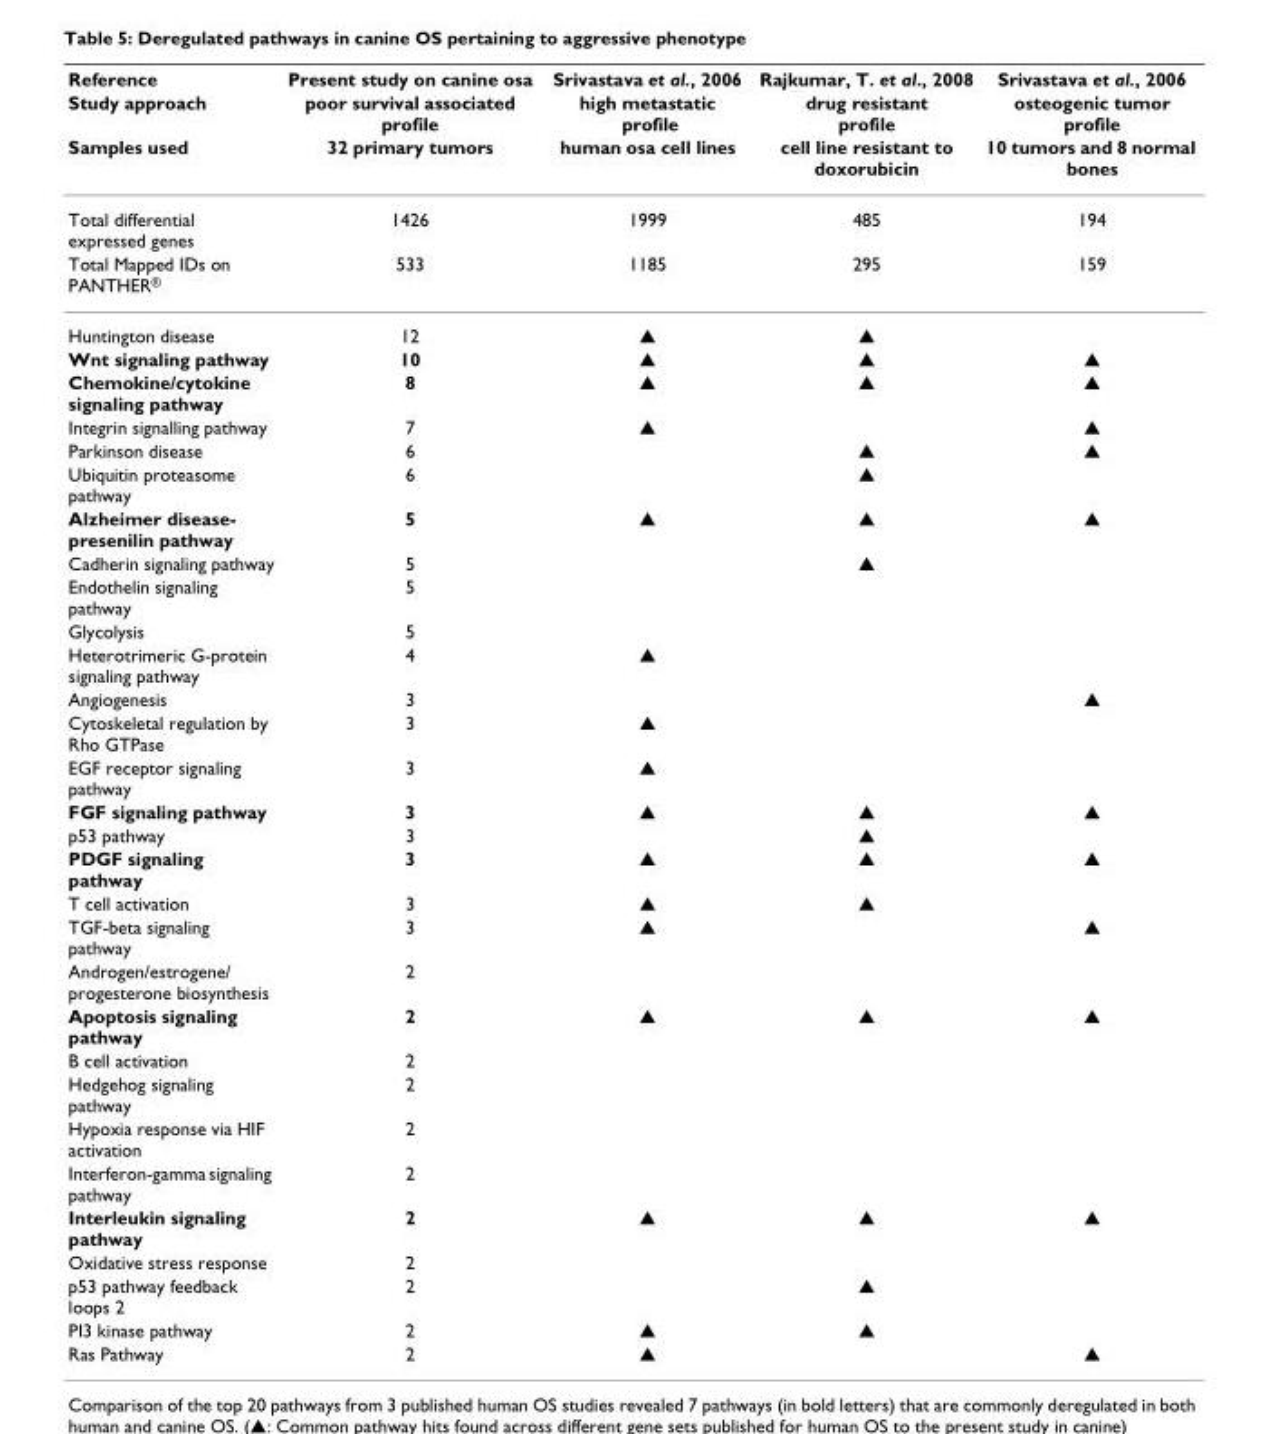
<table><thead><tr><td rowspan="3">Reference Study approach Samples used</td><td rowspan="3">Present study on canine osa poor survival associated profile 32 primary tumors</td><td rowspan="3">Srivastava et al., 2006 high metastatic profile human osa cell lines</td><td rowspan="3">Rajkumar, T. et al., 2008 drug resistant profile cell line resistant to doxorubicin</td><td rowspan="3">Srivastava et al., 2006 osteogenic tumor profile 10 tumors and 8 normal bones</td></tr><tr></tr><tr></tr></thead><tbody><tr><td>Total differential expressed genes</td><td>1426</td><td>1999</td><td>485</td><td>194</td></tr><tr><td>Total Mapped IDs on PANTHER®</td><td>533</td><td>1185</td><td>295</td><td>159</td></tr><tr><td>Huntington disease</td><td>12</td><td>▲</td><td>▲</td><td></td></tr><tr><td>Wnt signaling pathway</td><td>10</td><td>▲</td><td>▲</td><td>▲</td></tr><tr><td>Chemokine/cytokine signaling pathway</td><td>8</td><td>▲</td><td>▲</td><td>▲</td></tr><tr><td>Integrin signalling pathway</td><td>7</td><td>▲</td><td></td><td>▲</td></tr><tr><td>Parkinson disease</td><td>6</td><td></td><td>▲</td><td>▲</td></tr><tr><td>Ubiquitin proteasome pathway</td><td>6</td><td></td><td>▲</td><td></td></tr><tr><td>Alzheimer disease- presenilin pathway</td><td>5</td><td>▲</td><td>▲</td><td>▲</td></tr><tr><td>Cadherin signaling pathway</td><td>5</td><td></td><td>▲</td><td></td></tr><tr><td>Endothelin signaling pathway</td><td>5</td><td></td><td></td><td></td></tr><tr><td>Glycolysis</td><td>5</td><td></td><td></td><td></td></tr><tr><td>Heterotrimeric G-protein signaling pathway</td><td>4</td><td>▲</td><td></td><td></td></tr><tr><td>Angiogenesis</td><td>3</td><td></td><td></td><td>▲</td></tr><tr><td>Cytoskeletal regulation by Rho GTPase</td><td>3</td><td>▲</td><td></td><td></td></tr><tr><td>EGF receptor signaling pathway</td><td>3</td><td>▲</td><td></td><td></td></tr><tr><td>FGF signaling pathway</td><td>3</td><td>▲</td><td>▲</td><td>▲</td></tr><tr><td>p53 pathway</td><td>3</td><td></td><td>▲</td><td></td></tr><tr><td>PDGF signaling pathway</td><td>3</td><td>▲</td><td>▲</td><td>▲</td></tr><tr><td>T cell activation</td><td>3</td><td>▲</td><td>▲</td><td></td></tr><tr><td>TGF-beta signaling pathway</td><td>3</td><td>▲</td><td></td><td>▲</td></tr><tr><td>Androgen/estrogene/ progesterone biosynthesis</td><td>2</td><td></td><td></td><td></td></tr><tr><td>Apoptosis signaling pathway</td><td>2</td><td>▲</td><td>▲</td><td>▲</td></tr><tr><td>B cell activation</td><td>2</td><td></td><td></td><td></td></tr><tr><td>Hedgehog signaling pathway</td><td>2</td><td></td><td></td><td></td></tr><tr><td>Hypoxia response via HIF activation</td><td>2</td><td></td><td></td><td></td></tr><tr><td>Interferon-gamma signaling pathway</td><td>2</td><td></td><td></td><td></td></tr><tr><td>Interleukin signaling pathway</td><td>2</td><td>▲</td><td>▲</td><td>▲</td></tr><tr><td>Oxidative stress response</td><td>2</td><td></td><td></td><td></td></tr><tr><td>p53 pathway feedback loops 2</td><td>2</td><td></td><td>▲</td><td></td></tr><tr><td>PI3 kinase pathway</td><td>2</td><td>▲</td><td>▲</td><td></td></tr><tr><td>Ras Pathway</td><td>2</td><td>▲</td><td></td><td>▲</td></tr></tbody></table>